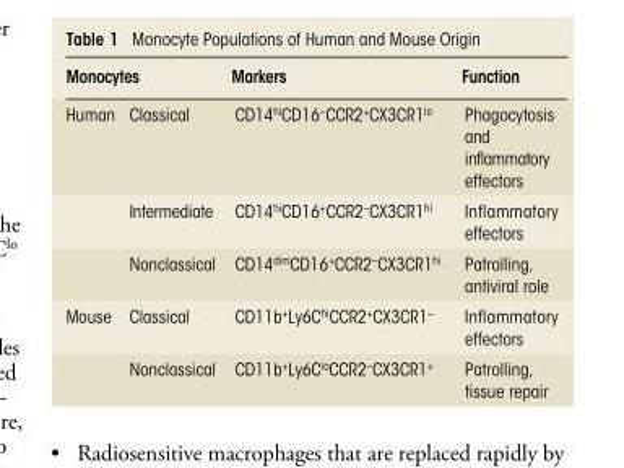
<table><thead><tr><td colspan="2">Monocytes</td><td rowspan="2">Markers CD14<sup>hi</sup>CD16<sup>–</sup>CCR2<sup>+</sup>CX3CR1<sup>lo</sup></td><td rowspan="2">Function Phagocytosis and inflammatory effectors</td></tr><tr><td>Human</td><td>Classical</td></tr></thead><tbody><tr><td></td><td>Intermediate</td><td>CD14<sup>hi</sup>CD16<sup>+</sup>CCR2<sup>–</sup>CX3CR1<sup>hi</sup></td><td>Inflammatory effectors</td></tr><tr><td></td><td>Nonclassical</td><td>CD14<sup>dim</sup>CD16<sup>+</sup>CCR2<sup>–</sup>CX3CR1<sup>hi</sup></td><td>Patrolling, antiviral role</td></tr><tr><td rowspan="2">Mouse</td><td>Classical</td><td>CD11b<sup>+</sup>Ly6C<sup>hi</sup>CCR2<sup>+</sup>CX3CR1<sup>–</sup></td><td>Inflammatory effectors</td></tr><tr><td>Nonclassical</td><td>CD11b<sup>+</sup>Ly6C<sup>lo</sup>CCR2<sup>–</sup>CX3CR1<sup>+</sup></td><td>Patrolling, tissue repair</td></tr></tbody></table>